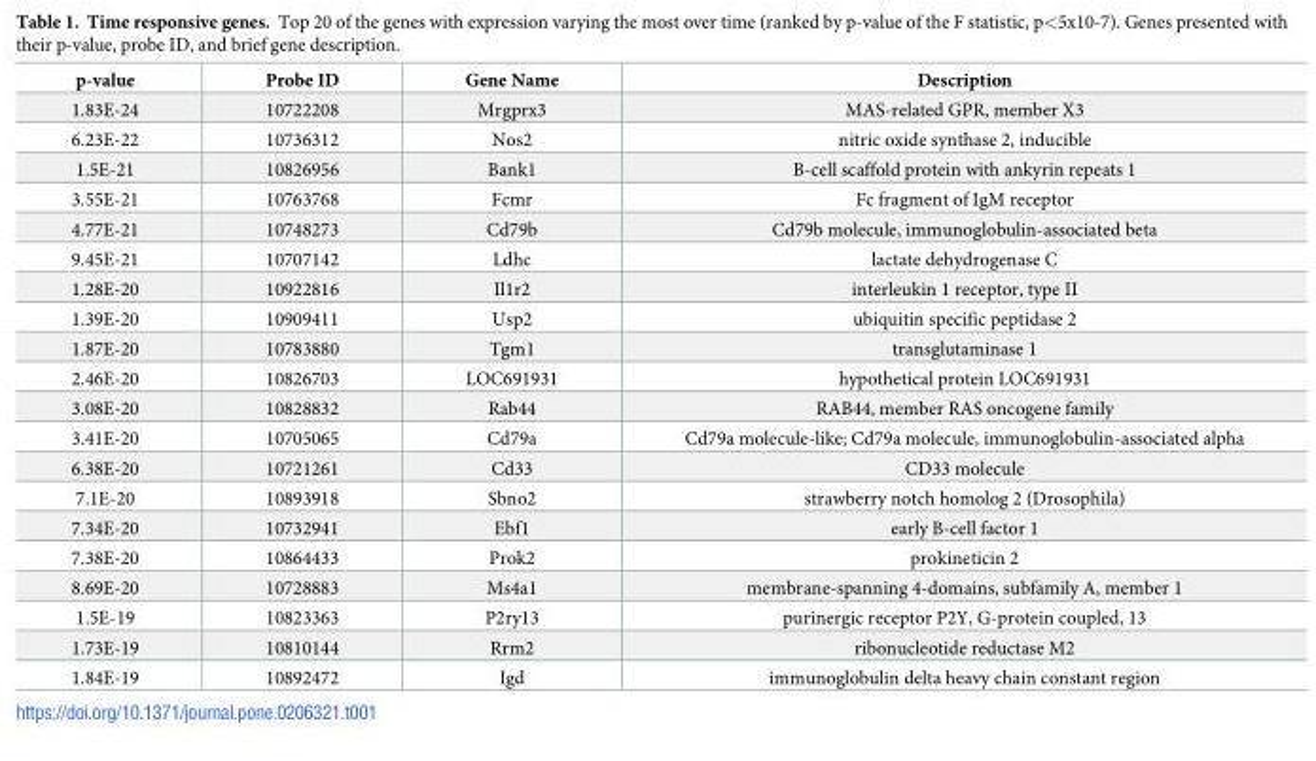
<table><thead><tr><td>p-value</td><td>Probe ID</td><td>Gene Name</td><td>Description</td></tr></thead><tbody><tr><td>1.83E-24</td><td>10722208</td><td>Mrgprx3</td><td>MAS-related GPR, member X3</td></tr><tr><td>6.23E-22</td><td>10736312</td><td>Nos2</td><td>nitric oxide synthase 2, inducible</td></tr><tr><td>1.5E-21</td><td>10826956</td><td>Bank1</td><td>B-cell scaffold protein with ankyrin repeats 1</td></tr><tr><td>3.55E-21</td><td>10763768</td><td>Fcmr</td><td>Fc fragment of IgM receptor</td></tr><tr><td>4.77E-21</td><td>10748273</td><td>Cd79b</td><td>Cd79b molecule, immunoglobulin-associated beta</td></tr><tr><td>9.45E-21</td><td>10707142</td><td>Ldhc</td><td>lactate dehydrogenase C</td></tr><tr><td>1.28E-20</td><td>10922816</td><td>Il1r2</td><td>interleukin 1 receptor, type II</td></tr><tr><td>1.39E-20</td><td>10909411</td><td>Usp2</td><td>ubiquitin specific peptidase 2</td></tr><tr><td>1.87E-20</td><td>10783880</td><td>Tgm1</td><td>transglutaminase 1</td></tr><tr><td>2.46E-20</td><td>10826703</td><td>LOC691931</td><td>hypothetical protein LOC691931</td></tr><tr><td>3.08E-20</td><td>10828832</td><td>Rab44</td><td>RAB44, member RAS oncogene family</td></tr><tr><td>3.41E-20</td><td>10705065</td><td>Cd79a</td><td>Cd79a molecule-like; Cd79a molecule, immunoglobulin-associated alpha</td></tr><tr><td>6.38E-20</td><td>10721261</td><td>Cd33</td><td>CD33 molecule</td></tr><tr><td>7.1E-20</td><td>10893918</td><td>Sbno2</td><td>strawberry notch homolog 2 (Drosophila)</td></tr><tr><td>7.34E-20</td><td>10732941</td><td>Ebf1</td><td>early B-cell factor 1</td></tr><tr><td>7.38E-20</td><td>10864433</td><td>Prok2</td><td>prokineticin 2</td></tr><tr><td>8.69E-20</td><td>10728883</td><td>Ms4a1</td><td>membrane-spanning 4-domains, subfamily A, member 1</td></tr><tr><td>1.5E-19</td><td>10823363</td><td>P2ry13</td><td>purinergic receptor P2Y, G-protein coupled, 13</td></tr><tr><td>1.73E-19</td><td>10810144</td><td>Rrm2</td><td>ribonucleotide reductase M2</td></tr><tr><td>1.84E-19</td><td>10892472</td><td>Igd</td><td>immunoglobulin delta heavy chain constant region</td></tr></tbody></table>